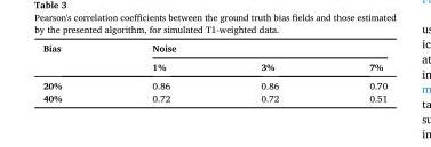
<table><thead><tr><td rowspan="2">Bias</td><td colspan="3">Noise</td></tr><tr><td>1%</td><td>3%</td><td>7%</td></tr></thead><tbody><tr><td>20%</td><td>0.86</td><td>0.86</td><td>0.70</td></tr><tr><td>40%</td><td>0.72</td><td>0.72</td><td>0.51</td></tr></tbody></table>